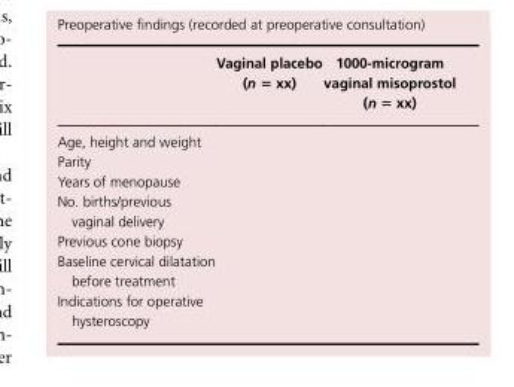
<table><thead><tr><td></td><td>Vaginal placebo (n = xx)</td><td>1000-microgram vaginal misoprostol (n = xx)</td></tr></thead><tbody><tr><td colspan="3">Age, height and weight</td></tr><tr><td colspan="3">Parity</td></tr><tr><td colspan="3">Years of menopause</td></tr><tr><td colspan="3">No. births/previous vaginal delivery</td></tr><tr><td colspan="3">Previous cone biopsy</td></tr><tr><td colspan="3">Baseline cervical dilatation before treatment</td></tr><tr><td>Indications for operative hysteroscopy</td><td></td><td></td></tr></tbody></table>